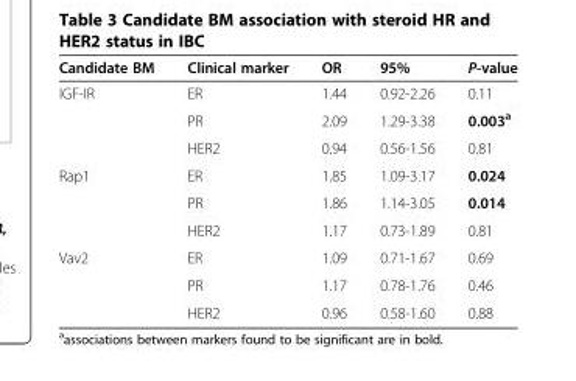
<table><thead><tr><td>Candidate BM</td><td>Clinical marker</td><td>OR</td><td>95%</td><td>P-value</td></tr></thead><tbody><tr><td rowspan="3">IGF-IR</td><td>ER</td><td>1.44</td><td>0.92-2.26</td><td>0.11</td></tr><tr><td>PR</td><td>2.09</td><td>1.29-3.38</td><td>0.003<sup>a</sup></td></tr><tr><td>HER2</td><td>0.94</td><td>0.56-1.56</td><td>0.81</td></tr><tr><td rowspan="3">Rap1</td><td>ER</td><td>1.85</td><td>1.09-3.17</td><td>0.024</td></tr><tr><td>PR</td><td>1.86</td><td>1.14-3.05</td><td>0.014</td></tr><tr><td>HER2</td><td>1.17</td><td>0.73-1.89</td><td>0.81</td></tr><tr><td rowspan="3">Vav2</td><td>ER</td><td>1.09</td><td>0.71-1.67</td><td>0.69</td></tr><tr><td>PR</td><td>1.17</td><td>0.78-1.76</td><td>0.46</td></tr><tr><td>HER2</td><td>0.96</td><td>0.58-1.60</td><td>0.88</td></tr></tbody></table>